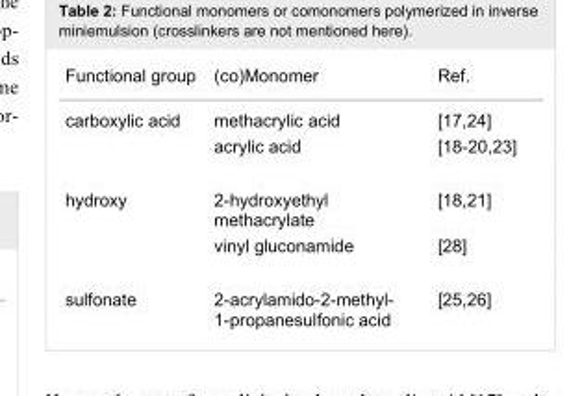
<table><tbody><tr><td>Functional group</td><td>(co)Monomer</td><td>Ref.</td></tr><tr><td rowspan="2">carboxylic acid</td><td>methacrylic acid</td><td>[17,24]</td></tr><tr><td>acrylic acid</td><td>[18-20,23]</td></tr><tr><td rowspan="2">hydroxy</td><td>2-hydroxyethyl methacrylate</td><td>[18,21]</td></tr><tr><td>vinyl gluconamide</td><td>[28]</td></tr><tr><td>sulfonate</td><td>2-acrylamido-2-methyl- 1-propanesulfonic acid</td><td>[25–26]</td></tr></tbody></table>